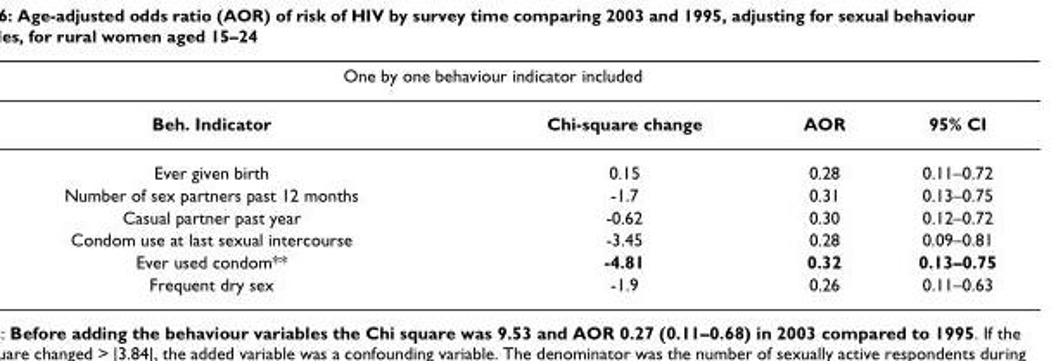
<table><thead><tr><td colspan="4">One by one behaviour indicator included</td></tr><tr><td>Beh. Indicator</td><td>Chi-square change</td><td>AOR</td><td>95% CI</td></tr></thead><tbody><tr><td>Ever given birth</td><td>0.15</td><td>0.28</td><td>0.11–0.72</td></tr><tr><td>Number of sex partners past 12 months</td><td>-1.7</td><td>0.31</td><td>0.13–0.75</td></tr><tr><td>Casual partner past year</td><td>-0.62</td><td>0.30</td><td>0.12–0.72</td></tr><tr><td>Condom use at last sexual intercourse</td><td>-3.45</td><td>0.28</td><td>0.09–0.81</td></tr><tr><td>Ever used condom**</td><td>-4.81</td><td>0.32</td><td>0.13–0.75</td></tr><tr><td>Frequent dry sex</td><td>-1.9</td><td>0.26</td><td>0.11–0.63</td></tr></tbody></table>